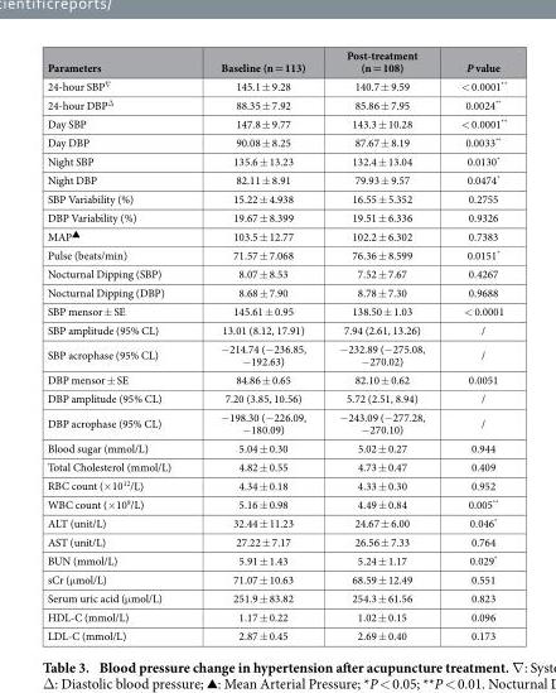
<table><thead><tr><td>Parameters</td><td>Baseline (n = 113)</td><td>Post-treatment (n = 108)</td><td>P value</td></tr></thead><tbody><tr><td>24-hour SBP<sup>∇</sup></td><td>145.1 ± 9.28</td><td>140.7 ± 9.59</td><td>&lt; 0.0001**</td></tr><tr><td>24-hour DBP<sup>Δ</sup></td><td>88.35 ± 7.92</td><td>85.86 ± 7.95</td><td>0.0024**</td></tr><tr><td>Day SBP</td><td>147.8 ± 9.77</td><td>143.3 ± 10.28</td><td>&lt; 0.0001**</td></tr><tr><td>Day DBP</td><td>90.08 ± 8.25</td><td>87.67 ± 8.19</td><td>0.0033**</td></tr><tr><td>Night SBP</td><td>135.6 ± 13.23</td><td>132.4 ± 13.04</td><td>0.0130*</td></tr><tr><td>Night DBP</td><td>82.11 ± 8.91</td><td>79.93 ± 9.57</td><td>0.0474*</td></tr><tr><td>SBP Variability (%)</td><td>15.22 ± 4.938</td><td>16.55 ± 5.352</td><td>0.2755</td></tr><tr><td>DBP Variability (%)</td><td>19.67 ± 8.399</td><td>19.51 ± 6.336</td><td>0.9326</td></tr><tr><td>MAP<sup>▲</sup></td><td>103.5 ± 12.77</td><td>102.2 ± 6.302</td><td>0.7383</td></tr><tr><td>Pulse (beats/min)</td><td>71.57 ± 7.068</td><td>76.36 ± 8.599</td><td>0.0151*</td></tr><tr><td>Nocturnal Dipping (SBP)</td><td>8.07 ± 8.53</td><td>7.52 ± 7.67</td><td>0.4267</td></tr><tr><td>Nocturnal Dipping (DBP)</td><td>8.68 ± 7.90</td><td>8.78 ± 7.30</td><td>0.9688</td></tr><tr><td>SBP mensor ± SE</td><td>145.61 ± 0.95</td><td>138.50 ± 1.03</td><td>&lt; 0.0001</td></tr><tr><td>SBP amplitude (95% CL)</td><td>13.01 (8.12, 17.91)</td><td>7.94 (2.61, 13.26)</td><td>/</td></tr><tr><td>SBP acrophase (95% CL)</td><td>− 214.74 (− 236.85, − 192.63)</td><td>− 232.89 (− 275.08, − 270.02)</td><td>/</td></tr><tr><td>DBP mensor ± SE</td><td>84.86 ± 0.65</td><td>82.10 ± 0.62</td><td>0.0051</td></tr><tr><td>DBP amplitude (95% CL)</td><td>7.20 (3.85, 10.56)</td><td>5.72 (2.51, 8.94)</td><td>/</td></tr><tr><td>DBP acrophase (95% CL)</td><td>− 198.30 (− 226.09, − 180.09)</td><td>− 243.09 (− 277.28, − 270.10)</td><td>/</td></tr><tr><td>Blood sugar (mmol/L)</td><td>5.04 ± 0.30</td><td>5.02 ± 0.27</td><td>0.944</td></tr><tr><td>Total Cholesterol (mmol/L)</td><td>4.82 ± 0.55</td><td>4.73 ± 0.47</td><td>0.409</td></tr><tr><td>RBC count (× 10<sup>12</sup>/L)</td><td>4.34 ± 0.18</td><td>4.33 ± 0.30</td><td>0.952</td></tr><tr><td>WBC count (× 10<sup>9</sup>/L)</td><td>5.16 ± 0.98</td><td>4.49 ± 0.84</td><td>0.005**</td></tr><tr><td>ALT (unit/L)</td><td>32.44 ± 11.23</td><td>24.67 ± 6.00</td><td>0.046*</td></tr><tr><td>AST (unit/L)</td><td>27.22 ± 7.17</td><td>26.56 ± 7.33</td><td>0.764</td></tr><tr><td>BUN (mmol/L)</td><td>5.91 ± 1.43</td><td>5.24 ± 1.17</td><td>0.029*</td></tr><tr><td>sCr (μ mol/L)</td><td>71.07 ± 10.63</td><td>68.59 ± 12.49</td><td>0.551</td></tr><tr><td>Serum uric acid (μ mol/L)</td><td>251.9 ± 83.82</td><td>254.3 ± 61.56</td><td>0.823</td></tr><tr><td>HDL-C (mmol/L)</td><td>1.17 ± 0.22</td><td>1.02 ± 0.15</td><td>0.096</td></tr><tr><td>LDL-C (mmol/L)</td><td>2.87 ± 0.45</td><td>2.69 ± 0.40</td><td>0.173</td></tr></tbody></table>